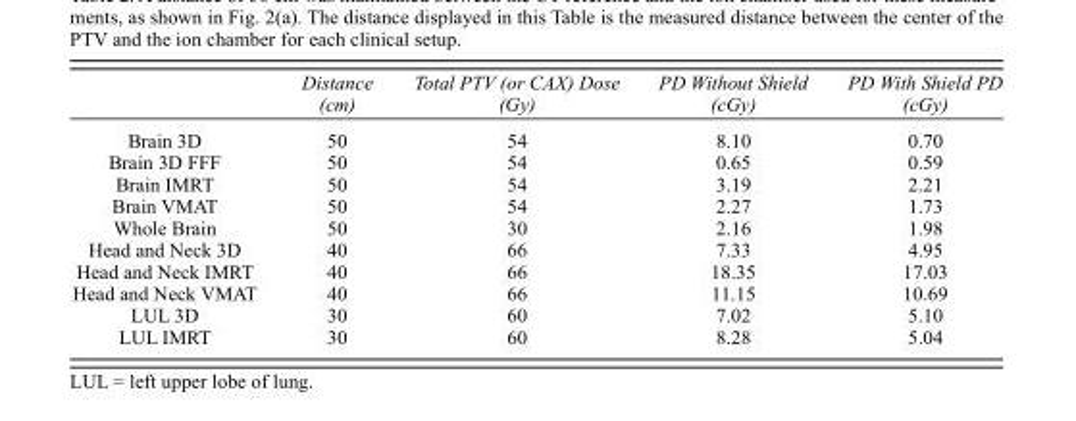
<table><thead><tr><td></td><td>Distance (cm)</td><td>Total PTV (or CAX) Dose (Gy)</td><td>PD Without Shield (cGy)</td><td>PD With Shield PD (cGy)</td></tr></thead><tbody><tr><td>Brain 3D</td><td>50</td><td>54</td><td>8.10</td><td>0.70</td></tr><tr><td>Brain 3D FFF</td><td>50</td><td>54</td><td>0.65</td><td>0.59</td></tr><tr><td>Brain IMRT</td><td>50</td><td>54</td><td>3.19</td><td>2.21</td></tr><tr><td>Brain VMAT</td><td>50</td><td>54</td><td>2.27</td><td>1.73</td></tr><tr><td>Whole Brain</td><td>50</td><td>30</td><td>2.16</td><td>1.98</td></tr><tr><td>Head and Neck 3D</td><td>40</td><td>66</td><td>7.33</td><td>4.95</td></tr><tr><td>Head and Neck IMRT</td><td>40</td><td>66</td><td>18.35</td><td>17.03</td></tr><tr><td>Head and Neck VMAT</td><td>40</td><td>66</td><td>11.15</td><td>10.69</td></tr><tr><td>LUL 3D</td><td>30</td><td>60</td><td>7.02</td><td>5.10</td></tr><tr><td>LUL IMRT</td><td>30</td><td>60</td><td>8.28</td><td>5.04</td></tr></tbody></table>